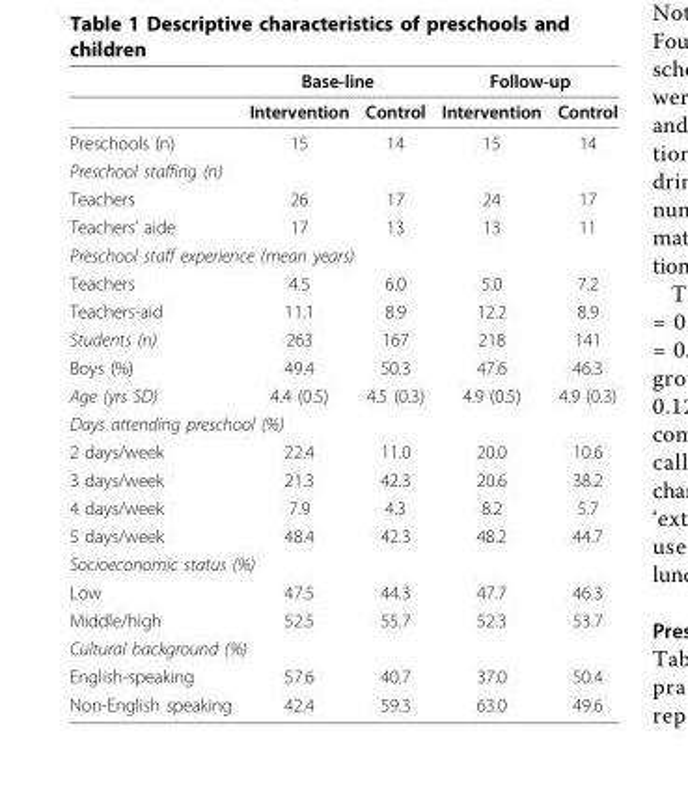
<table><thead><tr><td rowspan="2"></td><td colspan="2">Base-line</td><td colspan="2">Follow-up</td></tr><tr><td>Intervention</td><td>Control</td><td>Intervention</td><td>Control</td></tr></thead><tbody><tr><td>Preschools (n)</td><td>15</td><td>14</td><td>15</td><td>14</td></tr><tr><td colspan="5">Preschool staffing (n)</td></tr><tr><td>Teachers</td><td>26</td><td>17</td><td>24</td><td>17</td></tr><tr><td>Teachers’ aide</td><td>17</td><td>13</td><td>13</td><td>11</td></tr><tr><td colspan="5">Preschool staff experience (mean years)</td></tr><tr><td>Teachers</td><td>4.5</td><td>6.0</td><td>5.0</td><td>7.2</td></tr><tr><td>Teachers-aid</td><td>11.1</td><td>8.9</td><td>12.2</td><td>8.9</td></tr><tr><td>Students (n)</td><td>263</td><td>167</td><td>218</td><td>141</td></tr><tr><td>Boys (%)</td><td>49.4</td><td>50.3</td><td>47.6</td><td>46.3</td></tr><tr><td>Age (yrs SD)</td><td>4.4 (0.5)</td><td>4.5 (0.3)</td><td>4.9 (0.5)</td><td>4.9 (0.3)</td></tr><tr><td colspan="5">Days attending preschool (%)</td></tr><tr><td>2 days/week</td><td>22.4</td><td>11.0</td><td>20.0</td><td>10.6</td></tr><tr><td>3 days/week</td><td>21.3</td><td>42.3</td><td>20.6</td><td>38.2</td></tr><tr><td>4 days/week</td><td>7.9</td><td>4.3</td><td>8.2</td><td>5.7</td></tr><tr><td>5 days/week</td><td>48.4</td><td>42.3</td><td>48.2</td><td>44.7</td></tr><tr><td colspan="5">Socioeconomic status (%)</td></tr><tr><td>Low</td><td>47.5</td><td>44.3</td><td>47.7</td><td>46.3</td></tr><tr><td>Middle/high</td><td>52.5</td><td>55.7</td><td>52.3</td><td>53.7</td></tr><tr><td colspan="5">Cultural background (%)</td></tr><tr><td>English-speaking</td><td>57.6</td><td>40.7</td><td>37.0</td><td>50.4</td></tr><tr><td>Non-English speaking</td><td>42.4</td><td>59.3</td><td>63.0</td><td>49.6</td></tr></tbody></table>